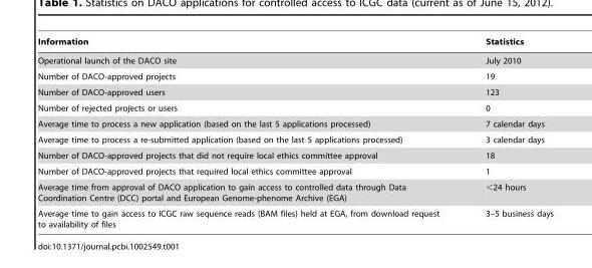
<table><thead><tr><td>Information</td><td>Statistics</td></tr></thead><tbody><tr><td>Operational launch of the DACO site</td><td>July 2010</td></tr><tr><td>Number of DACO-approved projects</td><td>19</td></tr><tr><td>Number of DACO-approved users</td><td>123</td></tr><tr><td>Number of rejected projects or users</td><td>0</td></tr><tr><td>Average time to process a new application (based on the last 5 applications processed)</td><td>7 calendar days</td></tr><tr><td>Average time to process a re-submitted application (based on the last 5 applications processed)</td><td>3 calendar days</td></tr><tr><td>Number of DACO-approved projects that did not require local ethics committee approval</td><td>18</td></tr><tr><td>Number of DACO-approved projects that required local ethics committee approval</td><td>1</td></tr><tr><td>Average time from approval of DACO application to gain access to controlled data through Data Coordination Centre (DCC) portal and European Genome-phenome Archive (EGA)</td><td>&lt;24 hours</td></tr><tr><td>Average time to gain access to ICGC raw sequence reads (BAM files) held at EGA, from download request to availability of files</td><td>3–5 business days</td></tr></tbody></table>